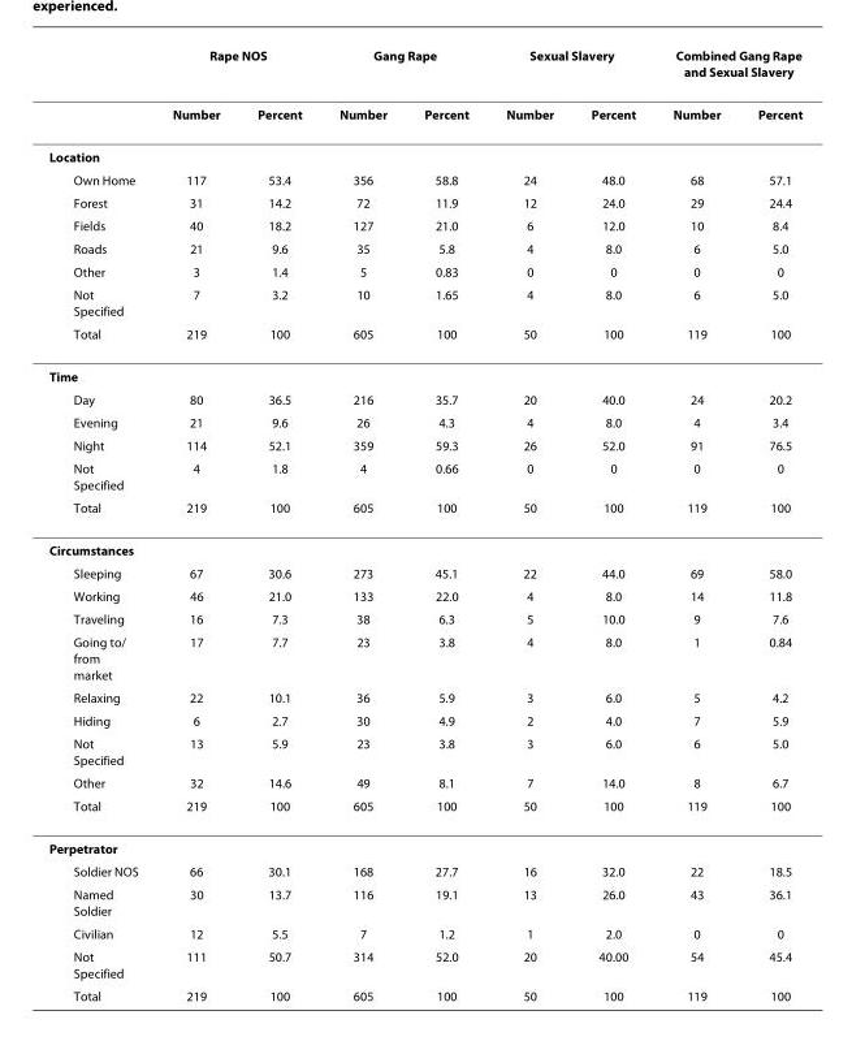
<table><thead><tr><td rowspan="2"></td><td colspan="2">Rape NOS</td><td colspan="2">Gang Rape</td><td colspan="2">Sexual Slavery</td><td colspan="2">Combined Gang Rape and Sexual Slavery</td></tr><tr><td>Number</td><td>Percent</td><td>Number</td><td>Percent</td><td>Number</td><td>Percent</td><td>Number</td><td>Percent</td></tr></thead><tbody><tr><td colspan="9">Location</td></tr><tr><td>Own Home</td><td>117</td><td>53.4</td><td>356</td><td>58.8</td><td>24</td><td>48.0</td><td>68</td><td>57.1</td></tr><tr><td>Forest</td><td>31</td><td>14.2</td><td>72</td><td>11.9</td><td>12</td><td>24.0</td><td>29</td><td>24.4</td></tr><tr><td>Fields</td><td>40</td><td>18.2</td><td>127</td><td>21.0</td><td>6</td><td>12.0</td><td>10</td><td>8.4</td></tr><tr><td>Roads</td><td>21</td><td>9.6</td><td>35</td><td>5.8</td><td>4</td><td>8.0</td><td>6</td><td>5.0</td></tr><tr><td>Other</td><td>3</td><td>1.4</td><td>5</td><td>0.83</td><td>0</td><td>0</td><td>0</td><td>0</td></tr><tr><td>Not Specified</td><td>7</td><td>3.2</td><td>10</td><td>1.65</td><td>4</td><td>8.0</td><td>6</td><td>5.0</td></tr><tr><td>Total</td><td>219</td><td>100</td><td>605</td><td>100</td><td>50</td><td>100</td><td>119</td><td>100</td></tr><tr><td colspan="9">Time</td></tr><tr><td>Day</td><td>80</td><td>36.5</td><td>216</td><td>35.7</td><td>20</td><td>40.0</td><td>24</td><td>20.2</td></tr><tr><td>Evening</td><td>21</td><td>9.6</td><td>26</td><td>4.3</td><td>4</td><td>8.0</td><td>4</td><td>3.4</td></tr><tr><td>Night</td><td>114</td><td>52.1</td><td>359</td><td>59.3</td><td>26</td><td>52.0</td><td>91</td><td>76.5</td></tr><tr><td>Not Specified</td><td>4</td><td>1.8</td><td>4</td><td>0.66</td><td>0</td><td>0</td><td>0</td><td>0</td></tr><tr><td>Total</td><td>219</td><td>100</td><td>605</td><td>100</td><td>50</td><td>100</td><td>119</td><td>100</td></tr><tr><td colspan="9">Circumstances</td></tr><tr><td>Sleeping</td><td>67</td><td>30.6</td><td>273</td><td>45.1</td><td>22</td><td>44.0</td><td>69</td><td>58.0</td></tr><tr><td>Working</td><td>46</td><td>21.0</td><td>133</td><td>22.0</td><td>4</td><td>8.0</td><td>14</td><td>11.8</td></tr><tr><td>Traveling</td><td>16</td><td>7.3</td><td>38</td><td>6.3</td><td>5</td><td>10.0</td><td>9</td><td>7.6</td></tr><tr><td>Going to/ from market</td><td>17</td><td>7.7</td><td>23</td><td>3.8</td><td>4</td><td>8.0</td><td>1</td><td>0.84</td></tr><tr><td>Relaxing</td><td>22</td><td>10.1</td><td>36</td><td>5.9</td><td>3</td><td>6.0</td><td>5</td><td>4.2</td></tr><tr><td>Hiding</td><td>6</td><td>2.7</td><td>30</td><td>4.9</td><td>2</td><td>4.0</td><td>7</td><td>5.9</td></tr><tr><td>Not Specified</td><td>13</td><td>5.9</td><td>23</td><td>3.8</td><td>3</td><td>6.0</td><td>6</td><td>5.0</td></tr><tr><td>Other</td><td>32</td><td>14.6</td><td>49</td><td>8.1</td><td>7</td><td>14.0</td><td>8</td><td>6.7</td></tr><tr><td>Total</td><td>219</td><td>100</td><td>605</td><td>100</td><td>50</td><td>100</td><td>119</td><td>100</td></tr><tr><td colspan="9">Perpetrator</td></tr><tr><td>Soldier NOS</td><td>66</td><td>30.1</td><td>168</td><td>27.7</td><td>16</td><td>32.0</td><td>22</td><td>18.5</td></tr><tr><td>Named Soldier</td><td>30</td><td>13.7</td><td>116</td><td>19.1</td><td>13</td><td>26.0</td><td>43</td><td>36.1</td></tr><tr><td>Civilian</td><td>12</td><td>5.5</td><td>7</td><td>1.2</td><td>1</td><td>2.0</td><td>0</td><td>0</td></tr><tr><td>Not Specified</td><td>111</td><td>50.7</td><td>314</td><td>52.0</td><td>20</td><td>40.00</td><td>54</td><td>45.4</td></tr><tr><td>Total</td><td>219</td><td>100</td><td>605</td><td>100</td><td>50</td><td>100</td><td>119</td><td>100</td></tr></tbody></table>